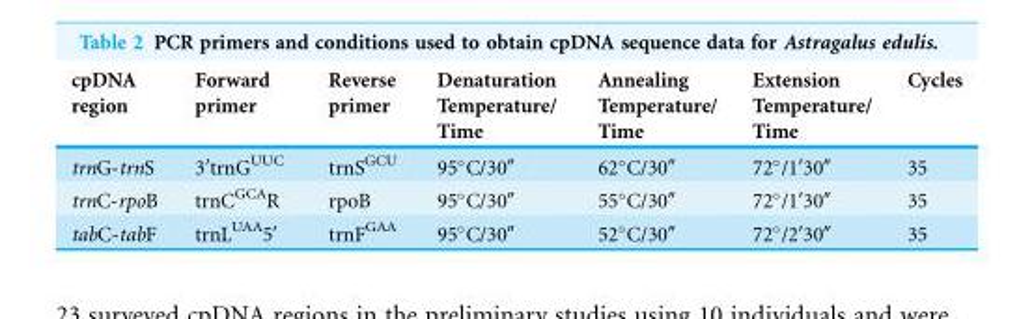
<table><thead><tr><td>cpDNA region</td><td>Forward primer</td><td>Reverse primer</td><td>Denaturation Temperature/ Time</td><td>Annealing Temperature/ Time</td><td>Extension Temperature/ Time</td><td>Cycles</td></tr></thead><tbody><tr><td>trnG-trnS</td><td>3′trnG<sup>UUC</sup></td><td>trnS<sup>GCU</sup></td><td>95°C/30″</td><td>62°C/30″</td><td>72°/1′30″</td><td>35</td></tr><tr><td>trnC-rpoB</td><td>trnC<sup>GCA</sup>R</td><td>rpoB</td><td>95°C/30″</td><td>55°C/30″</td><td>72°/1′30″</td><td>35</td></tr><tr><td>tabC-tabF</td><td>trnL<sup>UAA</sup>5′</td><td>trnF<sup>GAA</sup></td><td>95°C/30″</td><td>52°C/30″</td><td>72°/2′30″</td><td>35</td></tr></tbody></table>